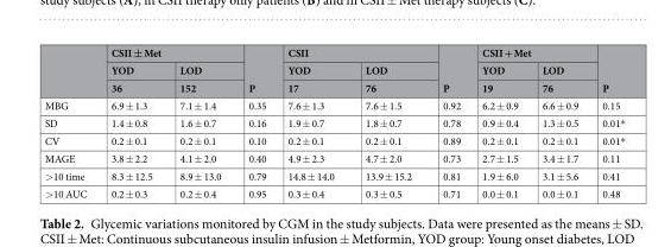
<table><thead><tr><td rowspan="3"></td><td colspan="2">CSII ± Met</td><td rowspan="3">P</td><td colspan="2">CSII</td><td rowspan="3">P</td><td colspan="2">CSII + Met</td><td rowspan="3">P</td></tr><tr><td rowspan="2">YOD 36</td><td rowspan="2">LOD 152</td><td rowspan="2">YOD 17</td><td rowspan="2">LOD 76</td><td rowspan="2">YOD 19</td><td rowspan="2">LOD 76</td></tr><tr></tr></thead><tbody><tr><td>MBG</td><td>6.9 ± 1.3</td><td>7.1 ± 1.4</td><td>0.35</td><td>7.6 ± 1.3</td><td>7.6 ± 1.5</td><td>0.92</td><td>6.2 ± 0.9</td><td>6.6 ± 0.9</td><td>0.15</td></tr><tr><td>SD</td><td>1.4 ± 0.8</td><td>1.6 ± 0.7</td><td>0.16</td><td>1.9 ± 0.7</td><td>1.8 ± 0.7</td><td>0.78</td><td>0.9 ± 0.4</td><td>1.3 ± 0.5</td><td>0.01*</td></tr><tr><td>CV</td><td>0.2 ± 0.1</td><td>0.2 ± 0.1</td><td>0.10</td><td>0.2 ± 0.1</td><td>0.2 ± 0.1</td><td>0.89</td><td>0.2 ± 0.1</td><td>0.2 ± 0.1</td><td>0.01*</td></tr><tr><td>MAGE</td><td>3.8 ± 2.2</td><td>4.1 ± 2.0</td><td>0.40</td><td>4.9 ± 2.3</td><td>4.7 ± 2.0</td><td>0.73</td><td>2.7 ± 1.5</td><td>3.4 ± 1.7</td><td>0.11</td></tr><tr><td>&gt;10 time</td><td>8.3 ± 12.5</td><td>8.9 ± 13.0</td><td>0.79</td><td>14.8 ± 14.0</td><td>13.9 ± 15.2</td><td>0.81</td><td>1.9 ± 6.0</td><td>3.1 ± 5.6</td><td>0.41</td></tr><tr><td>&gt;10 AUC</td><td>0.2 ± 0.3</td><td>0.2 ± 0.4</td><td>0.95</td><td>0.3 ± 0.4</td><td>0.3 ± 0.5</td><td>0.71</td><td>0.0 ± 0.1</td><td>0.0 ± 0.1</td><td>0.48</td></tr></tbody></table>